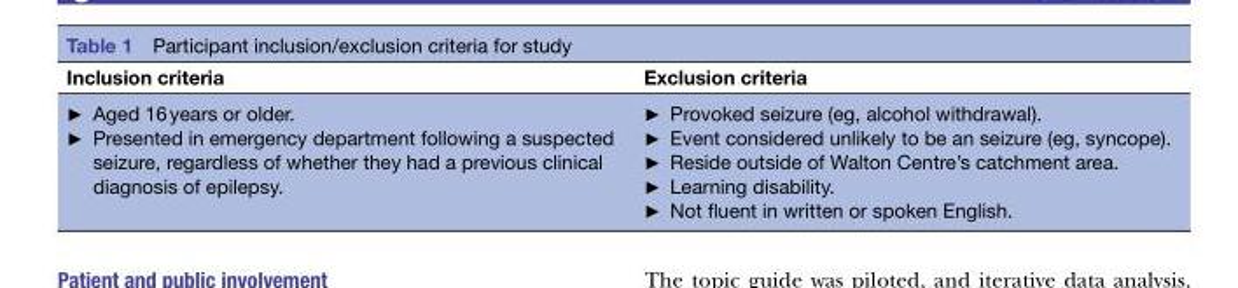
<table><thead><tr><td>Inclusion criteria</td><td>Exclusion criteria</td></tr></thead><tbody><tr><td>► Aged 16 years or older. ► Presented in emergency department following a suspected seizure, regardless of whether they had a previous clinical diagnosis of epilepsy.</td><td>► Provoked seizure (eg, alcohol withdrawal). ► Event considered unlikely to be an seizure (eg, syncope). ► Reside outside of Walton Centre’s catchment area. ► Learning disability. ► Not fluent in written or spoken English.</td></tr></tbody></table>